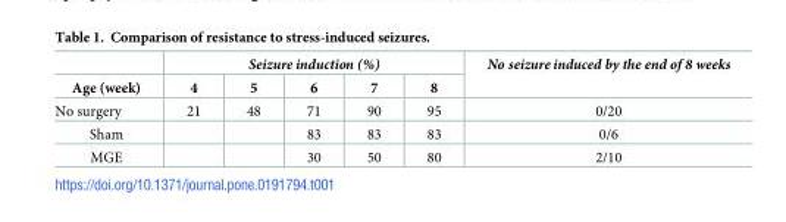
<table><thead><tr><td rowspan="2">Age (week)</td><td colspan="5">Seizure induction (%)</td><td rowspan="2">No seizure induced by the end of 8 weeks</td></tr><tr><td>4</td><td>5</td><td>6</td><td>7</td><td>8</td></tr></thead><tbody><tr><td>No surgery</td><td>21</td><td>48</td><td>71</td><td>90</td><td>95</td><td>0/20</td></tr><tr><td>Sham</td><td></td><td></td><td>83</td><td>83</td><td>83</td><td>0/6</td></tr><tr><td>MGE</td><td></td><td></td><td>30</td><td>50</td><td>80</td><td>2/10</td></tr></tbody></table>